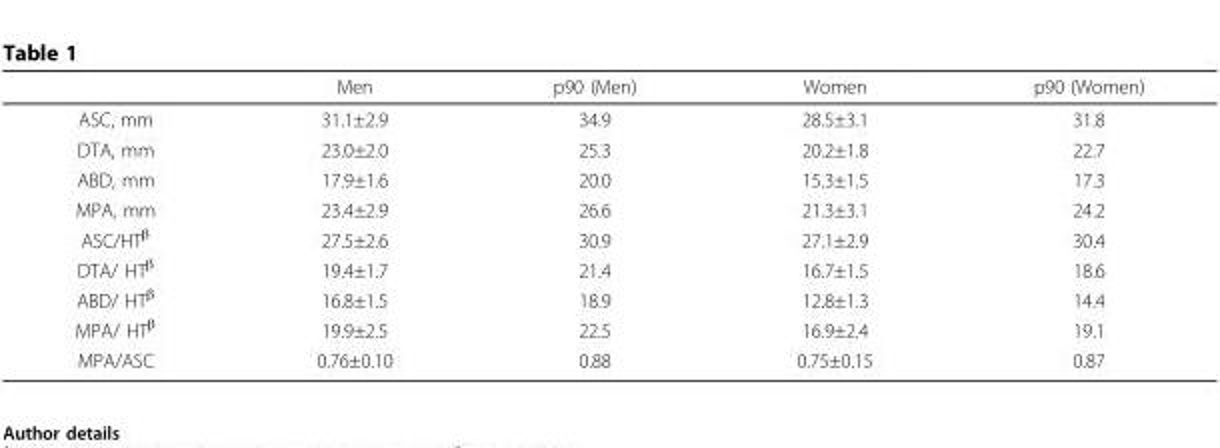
<table><thead><tr><td></td><td>Men</td><td>p90 (Men)</td><td>Women</td><td>p90 (Women)</td></tr></thead><tbody><tr><td>ASC, mm</td><td>31.1±2.9</td><td>34.9</td><td>28.5±3.1</td><td>31.8</td></tr><tr><td>DTA, mm</td><td>23.0±2.0</td><td>25.3</td><td>20.2±1.8</td><td>22.7</td></tr><tr><td>ABD, mm</td><td>17.9±1.6</td><td>20.0</td><td>15.3±1.5</td><td>17.3</td></tr><tr><td>MPA, mm</td><td>23.4±2.9</td><td>26.6</td><td>21.3±3.1</td><td>24.2</td></tr><tr><td>ASC/HT<sup>β</sup></td><td>27.5±2.6</td><td>30.9</td><td>27.1±2.9</td><td>30.4</td></tr><tr><td>DTA/ HT<sup>β</sup></td><td>19.4±1.7</td><td>21.4</td><td>16.7±1.5</td><td>18.6</td></tr><tr><td>ABD/ HT<sup>β</sup></td><td>16.8±1.5</td><td>18.9</td><td>12.8±1.3</td><td>14.4</td></tr><tr><td>MPA/ HT<sup>β</sup></td><td>19.9±2.5</td><td>22.5</td><td>16.9±2.4</td><td>19.1</td></tr><tr><td>MPA/ASC</td><td>0.76±0.10</td><td>0.88</td><td>0.75±0.15</td><td>0.87</td></tr></tbody></table>